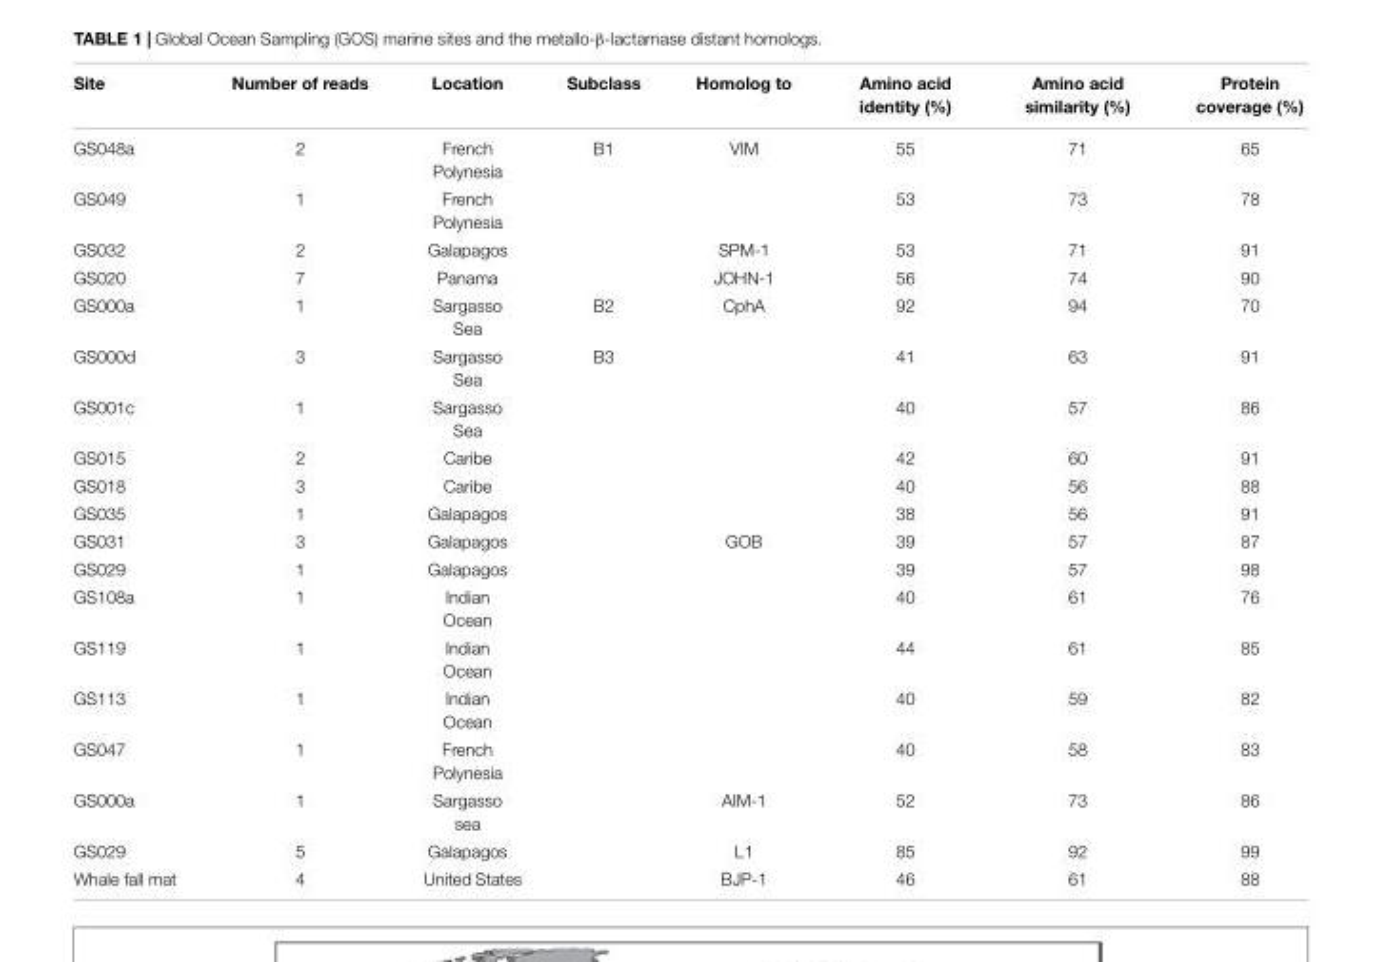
<table><thead><tr><td>Site</td><td>Number of reads</td><td>Location</td><td>Subclass</td><td>Homolog to</td><td>Amino acid identity (%)</td><td>Amino acid similarity (%)</td><td>Protein coverage (%)</td></tr></thead><tbody><tr><td>GS048a</td><td>2</td><td>French Polynesia</td><td>B1</td><td>VIM</td><td>55</td><td>71</td><td>65</td></tr><tr><td>GS049</td><td>1</td><td>French Polynesia</td><td></td><td></td><td>53</td><td>73</td><td>78</td></tr><tr><td>GS032</td><td>2</td><td>Galapagos</td><td></td><td>SPM-1</td><td>53</td><td>71</td><td>91</td></tr><tr><td>GS020</td><td>7</td><td>Panama</td><td></td><td>JOHN-1</td><td>56</td><td>74</td><td>90</td></tr><tr><td>GS000a</td><td>1</td><td>Sargasso Sea</td><td>B2</td><td>CphA</td><td>92</td><td>94</td><td>70</td></tr><tr><td>GS000d</td><td>3</td><td>Sargasso Sea</td><td>B3</td><td></td><td>41</td><td>63</td><td>91</td></tr><tr><td>GS001c</td><td>1</td><td>Sargasso Sea</td><td></td><td></td><td>40</td><td>57</td><td>86</td></tr><tr><td>GS015</td><td>2</td><td>Caribe</td><td></td><td></td><td>42</td><td>60</td><td>91</td></tr><tr><td>GS018</td><td>3</td><td>Caribe</td><td></td><td></td><td>40</td><td>56</td><td>88</td></tr><tr><td>GS035</td><td>1</td><td>Galapagos</td><td></td><td></td><td>38</td><td>56</td><td>91</td></tr><tr><td>GS031</td><td>3</td><td>Galapagos</td><td></td><td>GOB</td><td>39</td><td>57</td><td>87</td></tr><tr><td>GS029</td><td>1</td><td>Galapagos</td><td></td><td></td><td>39</td><td>57</td><td>98</td></tr><tr><td>GS108a</td><td>1</td><td>Indian Ocean</td><td></td><td></td><td>40</td><td>61</td><td>76</td></tr><tr><td>GS119</td><td>1</td><td>Indian Ocean</td><td></td><td></td><td>44</td><td>61</td><td>85</td></tr><tr><td>GS113</td><td>1</td><td>Indian Ocean</td><td></td><td></td><td>40</td><td>59</td><td>82</td></tr><tr><td>GS047</td><td>1</td><td>French Polynesia</td><td></td><td></td><td>40</td><td>58</td><td>83</td></tr><tr><td>GS000a</td><td>1</td><td>Sargasso sea</td><td></td><td>AIM-1</td><td>52</td><td>73</td><td>86</td></tr><tr><td>GS029</td><td>5</td><td>Galapagos</td><td></td><td>L1</td><td>85</td><td>92</td><td>99</td></tr><tr><td>Whale fall mat</td><td>4</td><td>United States</td><td></td><td>BJP-1</td><td>46</td><td>61</td><td>88</td></tr></tbody></table>